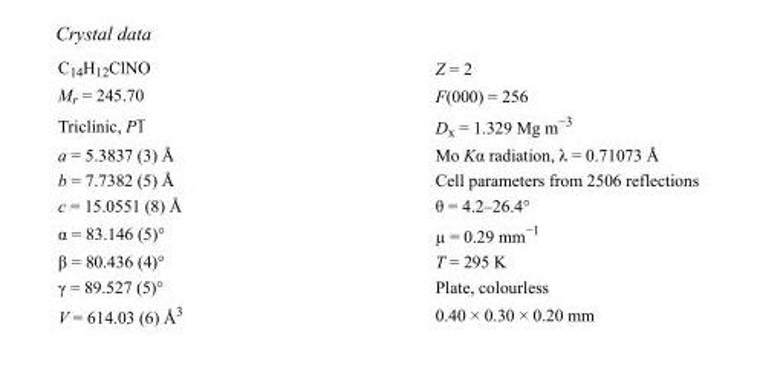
<table><tbody><tr><td>C<sub>14</sub>H<sub>12</sub>ClNO</td><td>Z = 2</td></tr><tr><td>M<sub>r</sub> = 245.70</td><td>F(000) = 256</td></tr><tr><td>Triclinic, P1</td><td>D<sub>x</sub> = 1.329 Mg m<sup>−3</sup></td></tr><tr><td>a = 5.3837 (3) Å</td><td>Mo Kα radiation, λ = 0.71073 Å</td></tr><tr><td>b = 7.7382 (5) Å</td><td>Cell parameters from 2506 reflections</td></tr><tr><td>c = 15.0551 (8) Å</td><td>θ = 4.2–26.4°</td></tr><tr><td>α = 83.146 (5)°</td><td>µ = 0.29 mm<sup>−1</sup></td></tr><tr><td>β = 80.436 (4)°</td><td>T = 295 K</td></tr><tr><td>γ = 89.527 (5)°</td><td>Plate, colourless</td></tr><tr><td>V = 614.03 (6) Å<sup>3</sup></td><td>0.40 × 0.30 × 0.20 mm</td></tr></tbody></table>